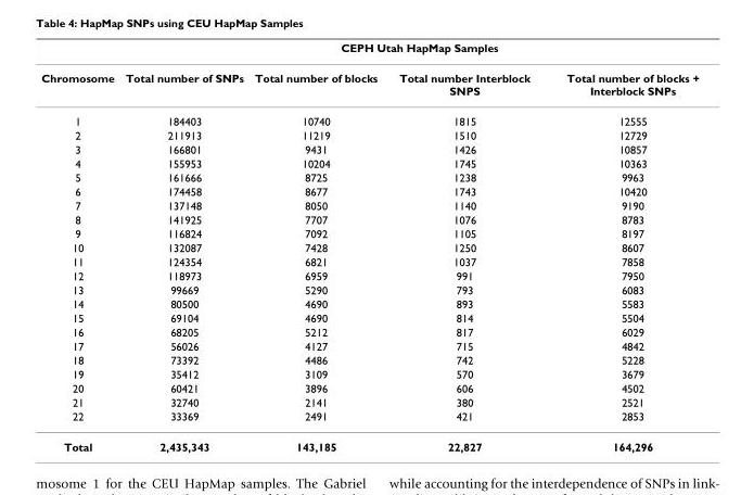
<table><thead><tr><td rowspan="2">Chromosome</td><td colspan="4">CEPH Utah HapMap Samples</td></tr><tr><td>Total number of SNPs</td><td>Total number of blocks</td><td>Total number Interblock SNPS</td><td>Total number of blocks + Interblock SNPs</td></tr></thead><tbody><tr><td>1</td><td>184403</td><td>10740</td><td>1815</td><td>12555</td></tr><tr><td>2</td><td>211913</td><td>11219</td><td>1510</td><td>12729</td></tr><tr><td>3</td><td>166801</td><td>9431</td><td>1426</td><td>10857</td></tr><tr><td>4</td><td>155953</td><td>10204</td><td>1745</td><td>10363</td></tr><tr><td>5</td><td>161666</td><td>8725</td><td>1238</td><td>9963</td></tr><tr><td>6</td><td>174458</td><td>8677</td><td>1743</td><td>10420</td></tr><tr><td>7</td><td>137148</td><td>8050</td><td>1140</td><td>9190</td></tr><tr><td>8</td><td>141925</td><td>7707</td><td>1076</td><td>8783</td></tr><tr><td>9</td><td>116824</td><td>7092</td><td>1105</td><td>8197</td></tr><tr><td>10</td><td>132087</td><td>7428</td><td>1250</td><td>8607</td></tr><tr><td>11</td><td>124354</td><td>6821</td><td>1037</td><td>7858</td></tr><tr><td>12</td><td>118973</td><td>6959</td><td>991</td><td>7950</td></tr><tr><td>13</td><td>99669</td><td>5290</td><td>793</td><td>6083</td></tr><tr><td>14</td><td>80500</td><td>4690</td><td>893</td><td>5583</td></tr><tr><td>15</td><td>69104</td><td>4690</td><td>814</td><td>5504</td></tr><tr><td>16</td><td>68205</td><td>5212</td><td>817</td><td>6029</td></tr><tr><td>17</td><td>56026</td><td>4127</td><td>715</td><td>4842</td></tr><tr><td>18</td><td>73392</td><td>4486</td><td>742</td><td>5228</td></tr><tr><td>19</td><td>35412</td><td>3109</td><td>570</td><td>3679</td></tr><tr><td>20</td><td>60421</td><td>3896</td><td>606</td><td>4502</td></tr><tr><td>21</td><td>32740</td><td>2141</td><td>380</td><td>2521</td></tr><tr><td>22</td><td>33369</td><td>2491</td><td>421</td><td>2853</td></tr><tr><td>Total</td><td>2,435,343</td><td>143,185</td><td>22,827</td><td>164,296</td></tr></tbody></table>